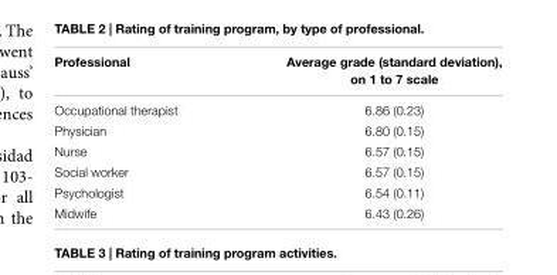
<table><thead><tr><td>Professional</td><td>Average grade (standard deviation), on 1 to 7 scale</td></tr></thead><tbody><tr><td>Occupational therapist</td><td>6.86 (0.23)</td></tr><tr><td>Physician</td><td>6.80 (0.15)</td></tr><tr><td>Nurse</td><td>6.57 (0.15)</td></tr><tr><td>Social worker</td><td>6.57 (0.15)</td></tr><tr><td>Psychologist</td><td>6.54 (0.11)</td></tr><tr><td>Midwife</td><td>6.43 (0.26)</td></tr></tbody></table>